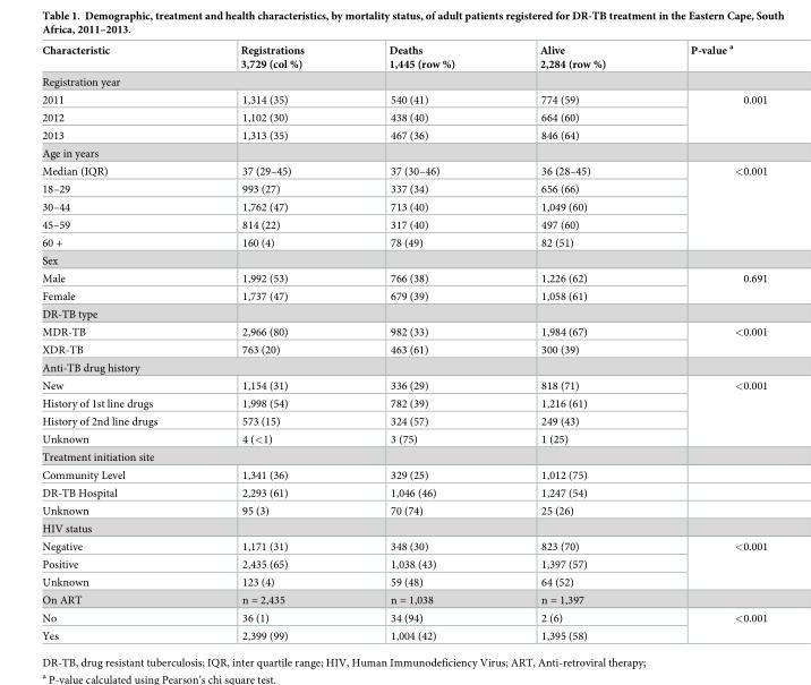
<table><thead><tr><td>Characteristic</td><td>Registrations 3,729 (col %)</td><td>Deaths 1,445 (row %)</td><td>Alive 2,284 (row %)</td><td>P-value <sup>a</sup></td></tr></thead><tbody><tr><td colspan="5">Registration year</td></tr><tr><td>2011</td><td>1,314 (35)</td><td>540 (41)</td><td>774 (59)</td><td rowspan="3">0.001</td></tr><tr><td>2012</td><td>1,102 (30)</td><td>438 (40)</td><td>664 (60)</td></tr><tr><td>2013</td><td>1,313 (35)</td><td>467 (36)</td><td>846 (64)</td></tr><tr><td colspan="5">Age in years</td></tr><tr><td>Median (IQR)</td><td>37 (29–45)</td><td>37 (30–46)</td><td>36 (28–45)</td><td rowspan="5">&lt;0.001</td></tr><tr><td>18–29</td><td>993 (27)</td><td>337 (34)</td><td>656 (66)</td></tr><tr><td>30–44</td><td>1,762 (47)</td><td>713 (40)</td><td>1,049 (60)</td></tr><tr><td>45–59</td><td>814 (22)</td><td>317 (40)</td><td>497 (60)</td></tr><tr><td>60 +</td><td>160 (4)</td><td>78 (49)</td><td>82 (51)</td></tr><tr><td colspan="5">Sex</td></tr><tr><td>Male</td><td>1,992 (53)</td><td>766 (38)</td><td>1,226 (62)</td><td rowspan="2">0.691</td></tr><tr><td>Female</td><td>1,737 (47)</td><td>679 (39)</td><td>1,058 (61)</td></tr><tr><td colspan="5">DR-TB type</td></tr><tr><td>MDR-TB</td><td>2,966 (80)</td><td>982 (33)</td><td>1,984 (67)</td><td rowspan="2">&lt;0.001</td></tr><tr><td>XDR-TB</td><td>763 (20)</td><td>463 (61)</td><td>300 (39)</td></tr><tr><td colspan="5">Anti-TB drug history</td></tr><tr><td>New</td><td>1,154 (31)</td><td>336 (29)</td><td>818 (71)</td><td rowspan="4">&lt;0.001</td></tr><tr><td>History of 1st line drugs</td><td>1,998 (54)</td><td>782 (39)</td><td>1,216 (61)</td></tr><tr><td>History of 2nd line drugs</td><td>573 (15)</td><td>324 (57)</td><td>249 (43)</td></tr><tr><td>Unknown</td><td>4 (&lt;1)</td><td>3 (75)</td><td>1 (25)</td></tr><tr><td colspan="5">Treatment initiation site</td></tr><tr><td>Community Level</td><td>1,341 (36)</td><td>329 (25)</td><td>1,012 (75)</td><td></td></tr><tr><td>DR-TB Hospital</td><td>2,293 (61)</td><td>1,046 (46)</td><td>1,247 (54)</td><td></td></tr><tr><td>Unknown</td><td>95 (3)</td><td>70 (74)</td><td>25 (26)</td><td></td></tr><tr><td colspan="5">HIV status</td></tr><tr><td>Negative</td><td>1,171 (31)</td><td>348 (30)</td><td>823 (70)</td><td rowspan="3">&lt;0.001</td></tr><tr><td>Positive</td><td>2,435 (65)</td><td>1,038 (43)</td><td>1,397 (57)</td></tr><tr><td>Unknown</td><td>123 (4)</td><td>59 (48)</td><td>64 (52)</td></tr><tr><td>On ART</td><td>n = 2,435</td><td>n = 1,038</td><td>n = 1,397</td><td></td></tr><tr><td>No</td><td>36 (1)</td><td>34 (94)</td><td>2 (6)</td><td rowspan="2">&lt;0.001</td></tr><tr><td>Yes</td><td>2,399 (99)</td><td>1,004 (42)</td><td>1,395 (58)</td></tr></tbody></table>